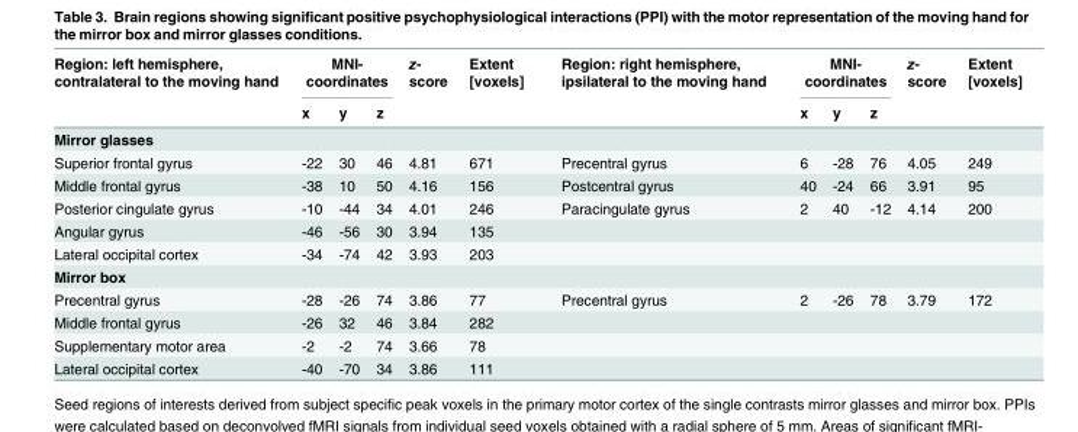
<table><thead><tr><td rowspan="2">Region: left hemisphere, contralateral to the moving hand</td><td colspan="3">MNI- coordinates</td><td rowspan="2">z- score</td><td rowspan="2">Extent [voxels]</td><td rowspan="2">Region: right hemisphere, ipsilateral to the moving hand</td><td colspan="3">MNI- coordinates</td><td rowspan="2">z- score</td><td rowspan="2">Extent [voxels]</td></tr><tr><td>x</td><td>y</td><td>z</td><td>x</td><td>y</td><td>z</td></tr></thead><tbody><tr><td colspan="12">Mirror glasses</td></tr><tr><td>Superior frontal gyrus</td><td>-22</td><td>30</td><td>46</td><td>4.81</td><td>671</td><td>Precentral gyrus</td><td>6</td><td>-28</td><td>76</td><td>4.05</td><td>249</td></tr><tr><td>Middle frontal gyrus</td><td>-38</td><td>10</td><td>50</td><td>4.16</td><td>156</td><td>Postcentral gyrus</td><td>40</td><td>-24</td><td>66</td><td>3.91</td><td>95</td></tr><tr><td>Posterior cingulate gyrus</td><td>-10</td><td>-44</td><td>34</td><td>4.01</td><td>246</td><td>Paracingulate gyrus</td><td>2</td><td>40</td><td>-12</td><td>4.14</td><td>200</td></tr><tr><td>Angular gyrus</td><td>-46</td><td>-56</td><td>30</td><td>3.94</td><td>135</td><td></td><td></td><td></td><td></td><td></td><td></td></tr><tr><td>Lateral occipital cortex</td><td>-34</td><td>-74</td><td>42</td><td>3.93</td><td>203</td><td></td><td></td><td></td><td></td><td></td><td></td></tr><tr><td colspan="12">Mirror box</td></tr><tr><td>Precentral gyrus</td><td>-28</td><td>-26</td><td>74</td><td>3.86</td><td>77</td><td>Precentral gyrus</td><td>2</td><td>-26</td><td>78</td><td>3.79</td><td>172</td></tr><tr><td>Middle frontal gyrus</td><td>-26</td><td>32</td><td>46</td><td>3.84</td><td>282</td><td></td><td></td><td></td><td></td><td></td><td></td></tr><tr><td>Supplementary motor area</td><td>-2</td><td>-2</td><td>74</td><td>3.66</td><td>78</td><td></td><td></td><td></td><td></td><td></td><td></td></tr><tr><td>Lateral occipital cortex</td><td>-40</td><td>-70</td><td>34</td><td>3.86</td><td>111</td><td></td><td></td><td></td><td></td><td></td><td></td></tr></tbody></table>